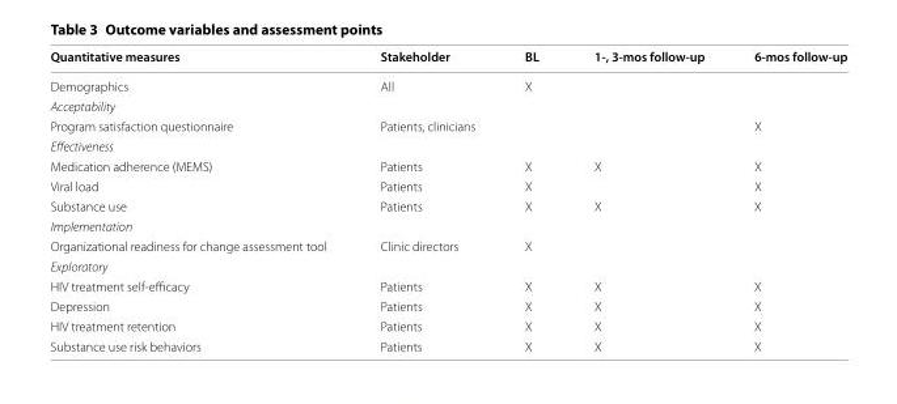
<table><thead><tr><td>Quantitative measures</td><td>Stakeholder</td><td>BL</td><td>1‑, 3‑mos follow‑up</td><td>6‑mos follow‑up</td></tr></thead><tbody><tr><td>Demographics</td><td>All</td><td>X</td><td></td><td></td></tr><tr><td colspan="5">Acceptability</td></tr><tr><td>Program satisfaction questionnaire</td><td>Patients, clinicians</td><td></td><td></td><td>X</td></tr><tr><td colspan="5">Effectiveness</td></tr><tr><td>Medication adherence (MEMS)</td><td>Patients</td><td>X</td><td>X</td><td>X</td></tr><tr><td>Viral load</td><td>Patients</td><td>X</td><td></td><td>X</td></tr><tr><td>Substance use</td><td>Patients</td><td>X</td><td>X</td><td>X</td></tr><tr><td colspan="5">Implementation</td></tr><tr><td>Organizational readiness for change assessment tool</td><td>Clinic directors</td><td>X</td><td></td><td></td></tr><tr><td colspan="5">Exploratory</td></tr><tr><td>HIV treatment self-efficacy</td><td>Patients</td><td>X</td><td>X</td><td>X</td></tr><tr><td>Depression</td><td>Patients</td><td>X</td><td>X</td><td>X</td></tr><tr><td>HIV treatment retention</td><td>Patients</td><td>X</td><td>X</td><td>X</td></tr><tr><td>Substance use risk behaviors</td><td>Patients</td><td>X</td><td>X</td><td>X</td></tr></tbody></table>